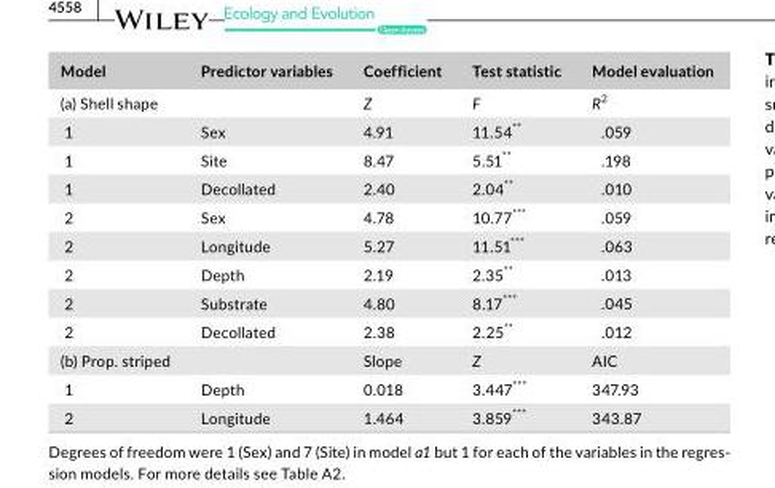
<table><thead><tr><td>Model</td><td>Predictor variables</td><td>Coefficient</td><td>Test statistic</td><td>Model evaluation</td></tr></thead><tbody><tr><td>(a) Shell shape</td><td></td><td>Z</td><td>F</td><td>R<sup>2</sup></td></tr><tr><td>1</td><td>Sex</td><td>4.91</td><td>11.54**</td><td>.059</td></tr><tr><td>1</td><td>Site</td><td>8.47</td><td>5.51**</td><td>.198</td></tr><tr><td>1</td><td>Decollated</td><td>2.40</td><td>2.04**</td><td>.010</td></tr><tr><td>2</td><td>Sex</td><td>4.78</td><td>10.77***</td><td>.059</td></tr><tr><td>2</td><td>Longitude</td><td>5.27</td><td>11.51***</td><td>.063</td></tr><tr><td>2</td><td>Depth</td><td>2.19</td><td>2.35**</td><td>.013</td></tr><tr><td>2</td><td>Substrate</td><td>4.80</td><td>8.17***</td><td>.045</td></tr><tr><td>2</td><td>Decollated</td><td>2.38</td><td>2.25**</td><td>.012</td></tr><tr><td>(b) Prop. striped</td><td></td><td>Slope</td><td>Z</td><td>AIC</td></tr><tr><td>1</td><td>Depth</td><td>0.018</td><td>3.447***</td><td>347.93</td></tr><tr><td>2</td><td>Longitude</td><td>1.464</td><td>3.859***</td><td>343.87</td></tr></tbody></table>